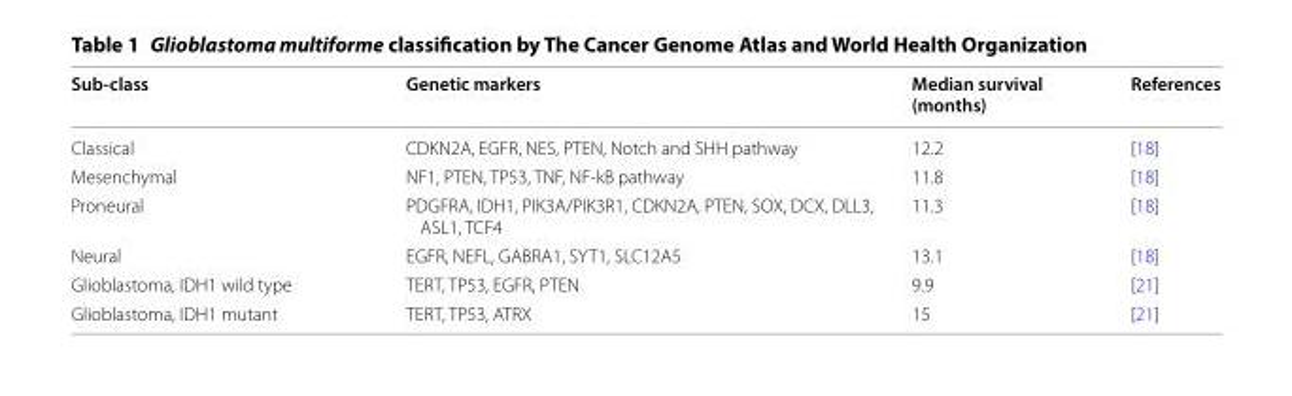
<table><thead><tr><td>Sub‑class</td><td>Genetic markers</td><td>Median survival (months)</td><td>References</td></tr></thead><tbody><tr><td>Classical</td><td>CDKN2A, EGFR, NES, PTEN, Notch and SHH pathway</td><td>12.2</td><td>[18]</td></tr><tr><td>Mesenchymal</td><td>NF1, PTEN, TP53, TNF, NF-kB pathway</td><td>11.8</td><td>[18]</td></tr><tr><td>Proneural</td><td>PDGFRA, IDH1, PIK3A/PIK3R1, CDKN2A, PTEN, SOX, DCX, DLL3, ASL1, TCF4</td><td>11.3</td><td>[18]</td></tr><tr><td>Neural</td><td>EGFR, NEFL, GABRA1, SYT1, SLC12A5</td><td>13.1</td><td>[18]</td></tr><tr><td>Glioblastoma, IDH1 wild type</td><td>TERT, TP53, EGFR, PTEN</td><td>9.9</td><td>[21]</td></tr><tr><td>Glioblastoma, IDH1 mutant</td><td>TERT, TP53, ATRX</td><td>15</td><td>[21]</td></tr></tbody></table>